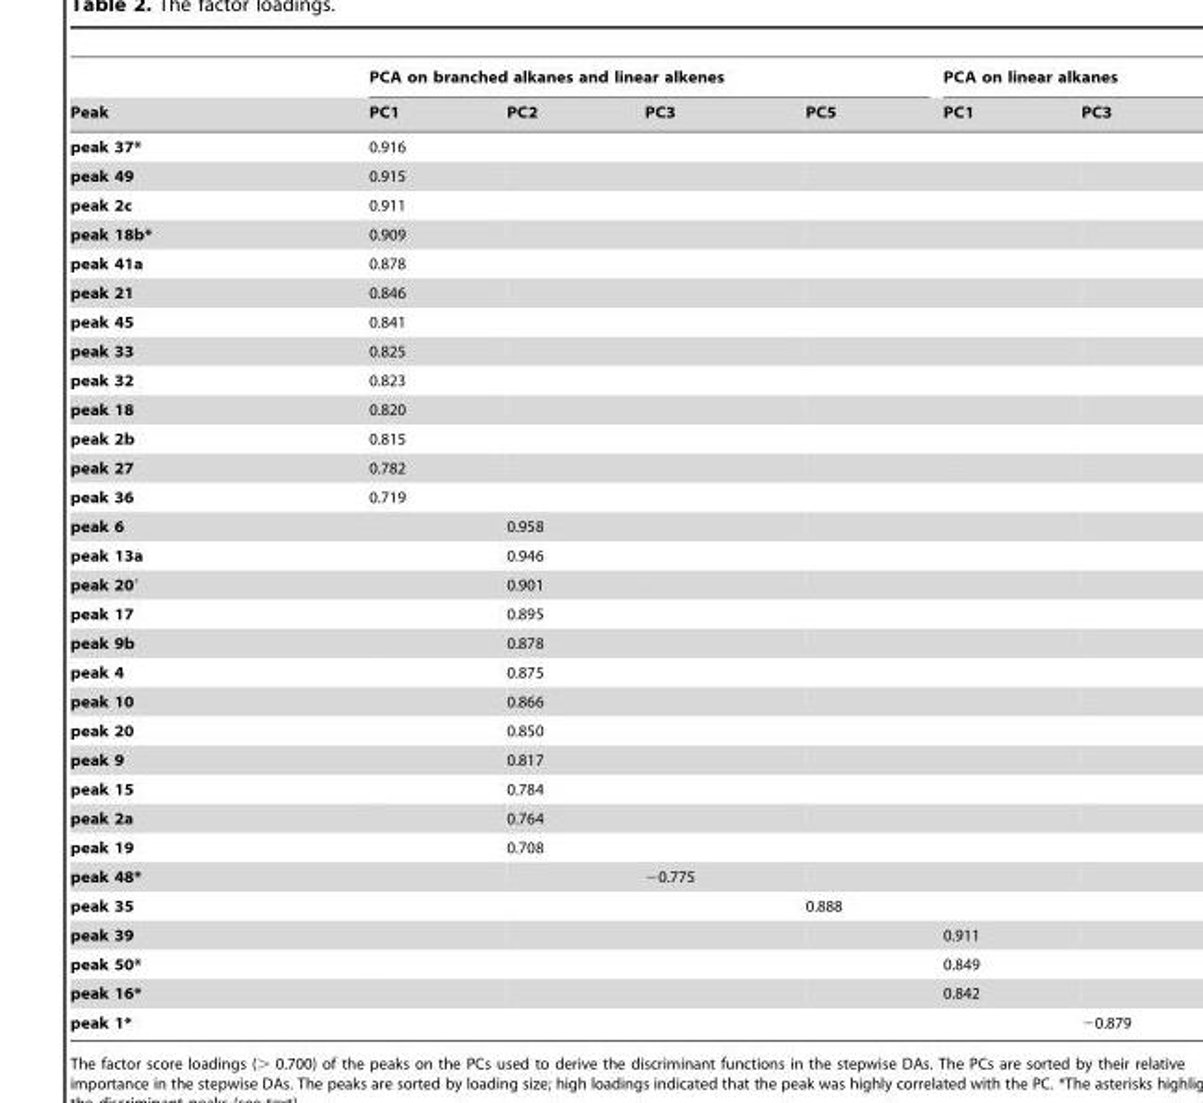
<table><thead><tr><td rowspan="2">Peak</td><td colspan="4">PCA on branched alkanes and linear alkenes</td><td colspan="2">PCA on linear alkanes</td></tr><tr><td>PC1</td><td>PC2</td><td>PC3</td><td>PC5</td><td>PC1</td><td>PC3</td></tr></thead><tbody><tr><td>peak 37*</td><td>0.916</td><td></td><td></td><td></td><td></td><td></td></tr><tr><td>peak 49</td><td>0.915</td><td></td><td></td><td></td><td></td><td></td></tr><tr><td>peak 2c</td><td>0.911</td><td></td><td></td><td></td><td></td><td></td></tr><tr><td>peak 18b*</td><td>0.909</td><td></td><td></td><td></td><td></td><td></td></tr><tr><td>peak 41a</td><td>0.878</td><td></td><td></td><td></td><td></td><td></td></tr><tr><td>peak 21</td><td>0.846</td><td></td><td></td><td></td><td></td><td></td></tr><tr><td>peak 45</td><td>0.841</td><td></td><td></td><td></td><td></td><td></td></tr><tr><td>peak 33</td><td>0.825</td><td></td><td></td><td></td><td></td><td></td></tr><tr><td>peak 32</td><td>0.823</td><td></td><td></td><td></td><td></td><td></td></tr><tr><td>peak 18</td><td>0.820</td><td></td><td></td><td></td><td></td><td></td></tr><tr><td>peak 2b</td><td>0.815</td><td></td><td></td><td></td><td></td><td></td></tr><tr><td>peak 27</td><td>0.782</td><td></td><td></td><td></td><td></td><td></td></tr><tr><td>peak 36</td><td>0.719</td><td></td><td></td><td></td><td></td><td></td></tr><tr><td>peak 6</td><td></td><td>0.958</td><td></td><td></td><td></td><td></td></tr><tr><td>peak 13a</td><td></td><td>0.946</td><td></td><td></td><td></td><td></td></tr><tr><td>peak 20′</td><td></td><td>0.901</td><td></td><td></td><td></td><td></td></tr><tr><td>peak 17</td><td></td><td>0.895</td><td></td><td></td><td></td><td></td></tr><tr><td>peak 9b</td><td></td><td>0.878</td><td></td><td></td><td></td><td></td></tr><tr><td>peak 4</td><td></td><td>0.875</td><td></td><td></td><td></td><td></td></tr><tr><td>peak 10</td><td></td><td>0.866</td><td></td><td></td><td></td><td></td></tr><tr><td>peak 20</td><td></td><td>0.850</td><td></td><td></td><td></td><td></td></tr><tr><td>peak 9</td><td></td><td>0.817</td><td></td><td></td><td></td><td></td></tr><tr><td>peak 15</td><td></td><td>0.784</td><td></td><td></td><td></td><td></td></tr><tr><td>peak 2a</td><td></td><td>0.764</td><td></td><td></td><td></td><td></td></tr><tr><td>peak 19</td><td></td><td>0.708</td><td></td><td></td><td></td><td></td></tr><tr><td>peak 48*</td><td></td><td></td><td>−0.775</td><td></td><td></td><td></td></tr><tr><td>peak 35</td><td></td><td></td><td></td><td>0.888</td><td></td><td></td></tr><tr><td>peak 39</td><td></td><td></td><td></td><td></td><td>0.911</td><td></td></tr><tr><td>peak 50*</td><td></td><td></td><td></td><td></td><td>0.849</td><td></td></tr><tr><td>peak 16*</td><td></td><td></td><td></td><td></td><td>0.842</td><td></td></tr><tr><td>peak 1*</td><td></td><td></td><td></td><td></td><td></td><td>−0.879</td></tr></tbody></table>